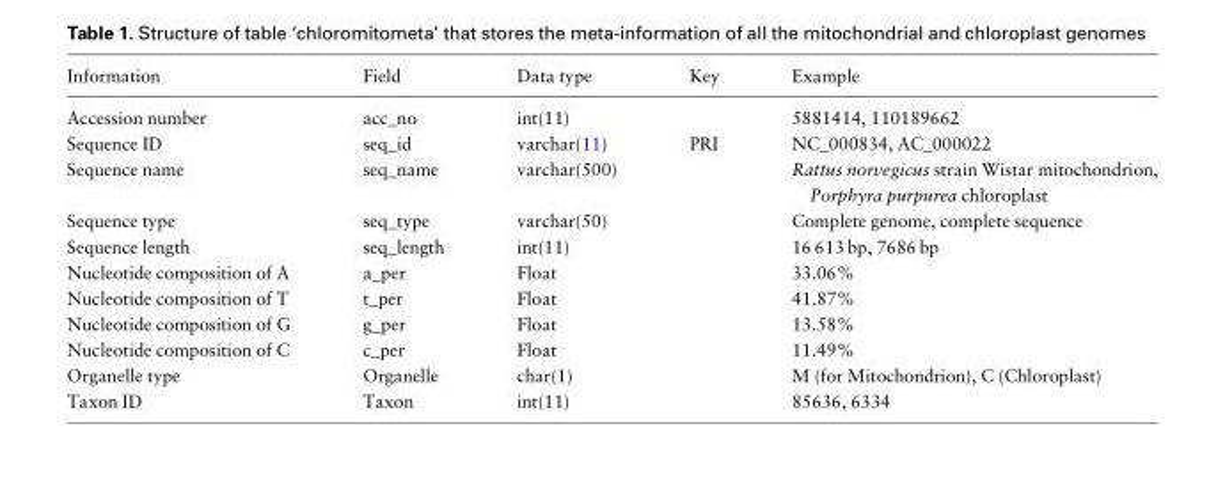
<table><thead><tr><td>Information</td><td>Field</td><td>Data type</td><td>Key</td><td>Example</td></tr></thead><tbody><tr><td>Accession number</td><td>acc_no</td><td>int(11)</td><td></td><td>5881414, 110189662</td></tr><tr><td>Sequence ID</td><td>seq_id</td><td>varchar(11)</td><td>PRI</td><td>NC_000834, AC_000022</td></tr><tr><td>Sequence name</td><td>seq_name</td><td>varchar(500)</td><td></td><td>Rattus norvegicus strain Wistar mitochondrion, Porphyra purpurea chloroplast</td></tr><tr><td>Sequence type</td><td>seq_type</td><td>varchar(50)</td><td></td><td>Complete genome, complete sequence</td></tr><tr><td>Sequence length</td><td>seq_length</td><td>int(11)</td><td></td><td>16 613 bp, 7686 bp</td></tr><tr><td>Nucleotide composition of A</td><td>a_per</td><td>Float</td><td></td><td>33.06%</td></tr><tr><td>Nucleotide composition of T</td><td>t_per</td><td>Float</td><td></td><td>41.87%</td></tr><tr><td>Nucleotide composition of G</td><td>g_per</td><td>Float</td><td></td><td>13.58%</td></tr><tr><td>Nucleotide composition of C</td><td>c_per</td><td>Float</td><td></td><td>11.49%</td></tr><tr><td>Organelle type</td><td>Organelle</td><td>char(1)</td><td></td><td>M (for Mitochondrion), C (Chloroplast)</td></tr><tr><td>Taxon ID</td><td>Taxon</td><td>int(11)</td><td></td><td>85636, 6334</td></tr></tbody></table>